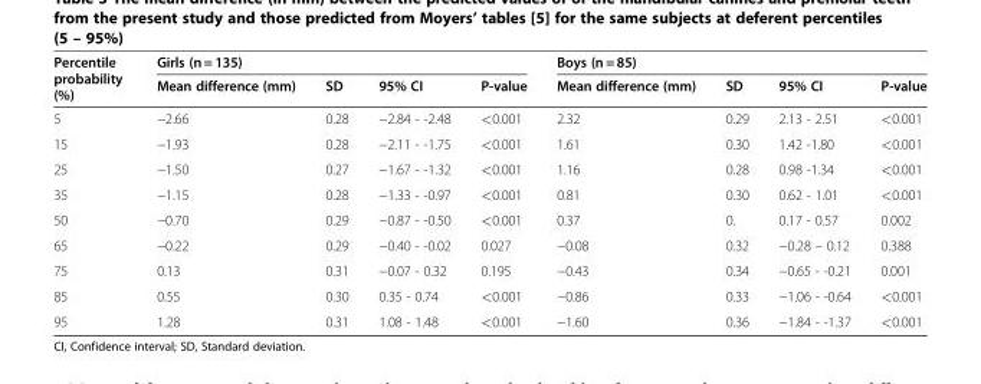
<table><thead><tr><td rowspan="2">Percentile probability (%)</td><td colspan="4">Girls (n = 135)</td><td colspan="4">Boys (n = 85)</td></tr><tr><td>Mean difference (mm)</td><td>SD</td><td>95% CI</td><td>P-value</td><td>Mean difference (mm)</td><td>SD</td><td>95% CI</td><td>P-value</td></tr></thead><tbody><tr><td>5</td><td>−2.66</td><td>0.28</td><td>−2.84 - -2.48</td><td>&lt;0.001</td><td>2.32</td><td>0.29</td><td>2.13 - 2.51</td><td>&lt;0.001</td></tr><tr><td>15</td><td>−1.93</td><td>0.28</td><td>−2.11 - -1.75</td><td>&lt;0.001</td><td>1.61</td><td>0.30</td><td>1.42 -1.80</td><td>&lt;0.001</td></tr><tr><td>25</td><td>−1.50</td><td>0.27</td><td>−1.67 - -1.32</td><td>&lt;0.001</td><td>1.16</td><td>0.28</td><td>0.98 -1.34</td><td>&lt;0.001</td></tr><tr><td>35</td><td>−1.15</td><td>0.28</td><td>−1.33 - -0.97</td><td>&lt;0.001</td><td>0.81</td><td>0.30</td><td>0.62 - 1.01</td><td>&lt;0.001</td></tr><tr><td>50</td><td>−0.70</td><td>0.29</td><td>−0.87 - -0.50</td><td>&lt;0.001</td><td>0.37</td><td>0.</td><td>0.17 - 0.57</td><td>0.002</td></tr><tr><td>65</td><td>−0.22</td><td>0.29</td><td>−0.40 - -0.02</td><td>0.027</td><td>−0.08</td><td>0.32</td><td>−0.28 – 0.12</td><td>0.388</td></tr><tr><td>75</td><td>0.13</td><td>0.31</td><td>−0.07 - 0.32</td><td>0.195</td><td>−0.43</td><td>0.34</td><td>−0.65 - -0.21</td><td>0.001</td></tr><tr><td>85</td><td>0.55</td><td>0.30</td><td>0.35 - 0.74</td><td>&lt;0.001</td><td>−0.86</td><td>0.33</td><td>−1.06 - -0.64</td><td>&lt;0.001</td></tr><tr><td>95</td><td>1.28</td><td>0.31</td><td>1.08 - 1.48</td><td>&lt;0.001</td><td>−1.60</td><td>0.36</td><td>−1.84 - -1.37</td><td>&lt;0.001</td></tr></tbody></table>